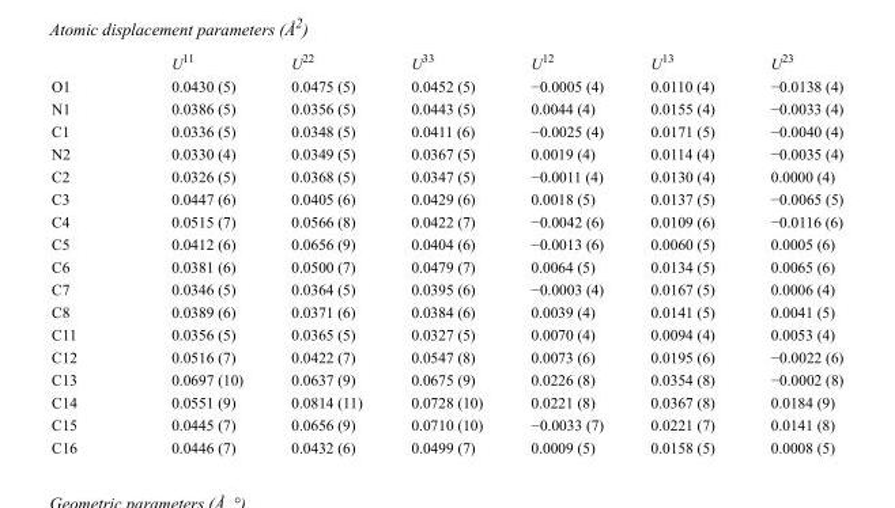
<table><thead><tr><td></td><td>U<sup>11</sup></td><td>U<sup>22</sup></td><td>U<sup>33</sup></td><td>U<sup>12</sup></td><td>U<sup>13</sup></td><td>U<sup>23</sup></td></tr></thead><tbody><tr><td>O1</td><td>0.0430 (5)</td><td>0.0475 (5)</td><td>0.0452 (5)</td><td>−0.0005 (4)</td><td>0.0110 (4)</td><td>−0.0138 (4)</td></tr><tr><td>N1</td><td>0.0386 (5)</td><td>0.0356 (5)</td><td>0.0443 (5)</td><td>0.0044 (4)</td><td>0.0155 (4)</td><td>−0.0033 (4)</td></tr><tr><td>C1</td><td>0.0336 (5)</td><td>0.0348 (5)</td><td>0.0411 (6)</td><td>−0.0025 (4)</td><td>0.0171 (5)</td><td>−0.0040 (4)</td></tr><tr><td>N2</td><td>0.0330 (4)</td><td>0.0349 (5)</td><td>0.0367 (5)</td><td>0.0019 (4)</td><td>0.0114 (4)</td><td>−0.0035 (4)</td></tr><tr><td>C2</td><td>0.0326 (5)</td><td>0.0368 (5)</td><td>0.0347 (5)</td><td>−0.0011 (4)</td><td>0.0130 (4)</td><td>0.0000 (4)</td></tr><tr><td>C3</td><td>0.0447 (6)</td><td>0.0405 (6)</td><td>0.0429 (6)</td><td>0.0018 (5)</td><td>0.0137 (5)</td><td>−0.0065 (5)</td></tr><tr><td>C4</td><td>0.0515 (7)</td><td>0.0566 (8)</td><td>0.0422 (7)</td><td>−0.0042 (6)</td><td>0.0109 (6)</td><td>−0.0116 (6)</td></tr><tr><td>C5</td><td>0.0412 (6)</td><td>0.0656 (9)</td><td>0.0404 (6)</td><td>−0.0013 (6)</td><td>0.0060 (5)</td><td>0.0005 (6)</td></tr><tr><td>C6</td><td>0.0381 (6)</td><td>0.0500 (7)</td><td>0.0479 (7)</td><td>0.0064 (5)</td><td>0.0134 (5)</td><td>0.0065 (6)</td></tr><tr><td>C7</td><td>0.0346 (5)</td><td>0.0364 (5)</td><td>0.0395 (6)</td><td>−0.0003 (4)</td><td>0.0167 (5)</td><td>0.0006 (4)</td></tr><tr><td>C8</td><td>0.0389 (6)</td><td>0.0371 (6)</td><td>0.0384 (6)</td><td>0.0039 (4)</td><td>0.0141 (5)</td><td>0.0041 (5)</td></tr><tr><td>C11</td><td>0.0356 (5)</td><td>0.0365 (5)</td><td>0.0327 (5)</td><td>0.0070 (4)</td><td>0.0094 (4)</td><td>0.0053 (4)</td></tr><tr><td>C12</td><td>0.0516 (7)</td><td>0.0422 (7)</td><td>0.0547 (8)</td><td>0.0073 (6)</td><td>0.0195 (6)</td><td>−0.0022 (6)</td></tr><tr><td>C13</td><td>0.0697 (10)</td><td>0.0637 (9)</td><td>0.0675 (9)</td><td>0.0226 (8)</td><td>0.0354 (8)</td><td>−0.0002 (8)</td></tr><tr><td>C14</td><td>0.0551 (9)</td><td>0.0814 (11)</td><td>0.0728 (10)</td><td>0.0221 (8)</td><td>0.0367 (8)</td><td>0.0184 (9)</td></tr><tr><td>C15</td><td>0.0445 (7)</td><td>0.0656 (9)</td><td>0.0710 (10)</td><td>−0.0033 (7)</td><td>0.0221 (7)</td><td>0.0141 (8)</td></tr><tr><td>C16</td><td>0.0446 (7)</td><td>0.0432 (6)</td><td>0.0499 (7)</td><td>0.0009 (5)</td><td>0.0158 (5)</td><td>0.0008 (5)</td></tr></tbody></table>